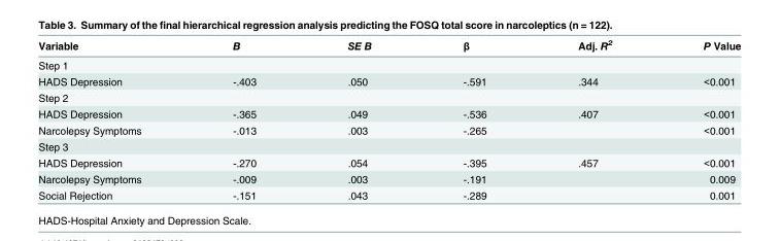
<table><thead><tr><td>Variable</td><td>B</td><td>SE B</td><td>β</td><td>Adj. R<sup>2</sup></td><td>P Value</td></tr></thead><tbody><tr><td colspan="6">Step 1</td></tr><tr><td>HADS Depression</td><td>-.403</td><td>.050</td><td>-.591</td><td>.344</td><td>&lt;0.001</td></tr><tr><td colspan="6">Step 2</td></tr><tr><td>HADS Depression</td><td>-.365</td><td>.049</td><td>-.536</td><td>.407</td><td>&lt;0.001</td></tr><tr><td>Narcolepsy Symptoms</td><td>-.013</td><td>.003</td><td>-.265</td><td></td><td>&lt;0.001</td></tr><tr><td colspan="6">Step 3</td></tr><tr><td>HADS Depression</td><td>-.270</td><td>.054</td><td>-.395</td><td>.457</td><td>&lt;0.001</td></tr><tr><td>Narcolepsy Symptoms</td><td>-.009</td><td>.003</td><td>-.191</td><td></td><td>0.009</td></tr><tr><td>Social Rejection</td><td>-.151</td><td>.043</td><td>-.289</td><td></td><td>0.001</td></tr></tbody></table>